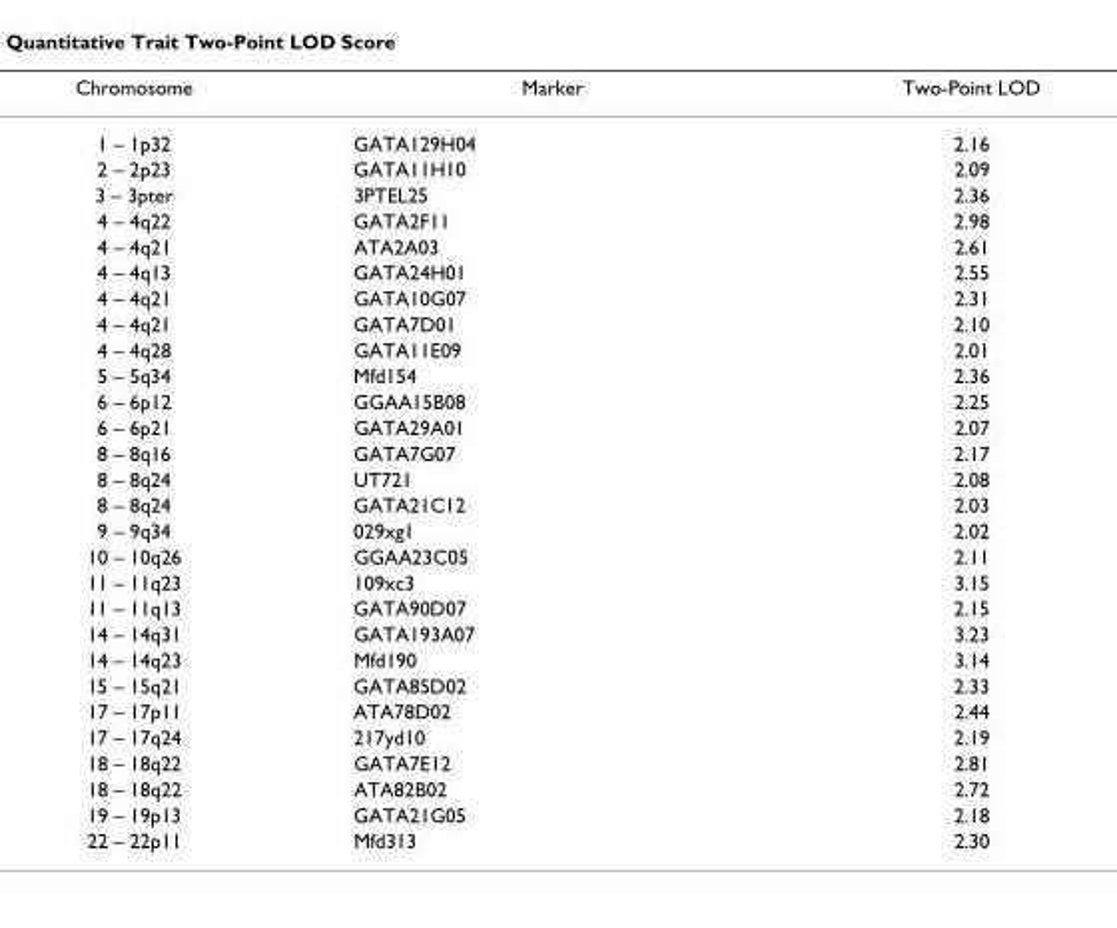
<table><thead><tr><td>Chromosome</td><td>Marker</td><td>Two-Point LOD</td></tr></thead><tbody><tr><td>1 – 1p32</td><td>GATA129H04</td><td>2.16</td></tr><tr><td>2 – 2p23</td><td>GATA11H10</td><td>2.09</td></tr><tr><td>3 – 3pter</td><td>3PTEL25</td><td>2.36</td></tr><tr><td>4 – 4q22</td><td>GATA2F11</td><td>2.98</td></tr><tr><td>4 – 4q21</td><td>ATA2A03</td><td>2.61</td></tr><tr><td>4 – 4q13</td><td>GATA24H01</td><td>2.55</td></tr><tr><td>4 – 4q21</td><td>GATA10G07</td><td>2.31</td></tr><tr><td>4 – 4q21</td><td>GATA7D01</td><td>2.10</td></tr><tr><td>4 – 4q28</td><td>GATA11E09</td><td>2.01</td></tr><tr><td>5 – 5q34</td><td>Mfd154</td><td>2.36</td></tr><tr><td>6 – 6p12</td><td>GGAA15B08</td><td>2.25</td></tr><tr><td>6 – 6p21</td><td>GATA29A01</td><td>2.07</td></tr><tr><td>8 – 8q16</td><td>GATA7G07</td><td>2.17</td></tr><tr><td>8 – 8q24</td><td>UT721</td><td>2.08</td></tr><tr><td>8 – 8q24</td><td>GATA21C12</td><td>2.03</td></tr><tr><td>9 – 9q34</td><td>029xg1</td><td>2.02</td></tr><tr><td>10 – 10q26</td><td>GGAA23C05</td><td>2.11</td></tr><tr><td>11 – 11q23</td><td>109xc3</td><td>3.15</td></tr><tr><td>11 – 11q13</td><td>GATA90D07</td><td>2.15</td></tr><tr><td>14 – 14q31</td><td>GATA193A07</td><td>3.23</td></tr><tr><td>14 – 14q23</td><td>Mfd190</td><td>3.14</td></tr><tr><td>15 – 15q21</td><td>GATA85D02</td><td>2.33</td></tr><tr><td>17 – 17p11</td><td>ATA78D02</td><td>2.44</td></tr><tr><td>17 – 17q24</td><td>217yd10</td><td>2.19</td></tr><tr><td>18 – 18q22</td><td>GATA7E12</td><td>2.81</td></tr><tr><td>18 – 18q22</td><td>ATA82B02</td><td>2.72</td></tr><tr><td>19 – 19p13</td><td>GATA21G05</td><td>2.18</td></tr><tr><td>22 – 22p11</td><td>Mfd313</td><td>2.30</td></tr></tbody></table>